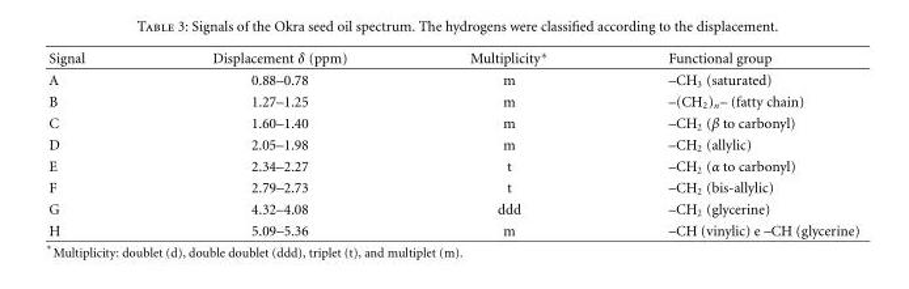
<table><thead><tr><td>Signal</td><td>Displacement δ (ppm)</td><td>Multiplicity∗</td><td>Functional group</td></tr></thead><tbody><tr><td>A</td><td>0.88–0.78</td><td>m</td><td>–CH<sub>3</sub> (saturated)</td></tr><tr><td>B</td><td>1.27–1.25</td><td>m</td><td>–(CH<sub>2</sub>)<sub>n</sub>– (fatty chain)</td></tr><tr><td>C</td><td>1.60–1.40</td><td>m</td><td>–CH<sub>2</sub> (β to carbonyl)</td></tr><tr><td>D</td><td>2.05–1.98</td><td>m</td><td>–CH<sub>2</sub> (allylic)</td></tr><tr><td>E</td><td>2.34–2.27</td><td>t</td><td>–CH<sub>2</sub> (α to carbonyl)</td></tr><tr><td>F</td><td>2.79–2.73</td><td>t</td><td>–CH<sub>2</sub> (bis-allylic)</td></tr><tr><td>G</td><td>4.32–4.08</td><td>ddd</td><td>–CH<sub>2</sub> (glycerine)</td></tr><tr><td>H</td><td>5.09–5.36</td><td>m</td><td>–CH (vinylic) e –CH (glycerine)</td></tr></tbody></table>